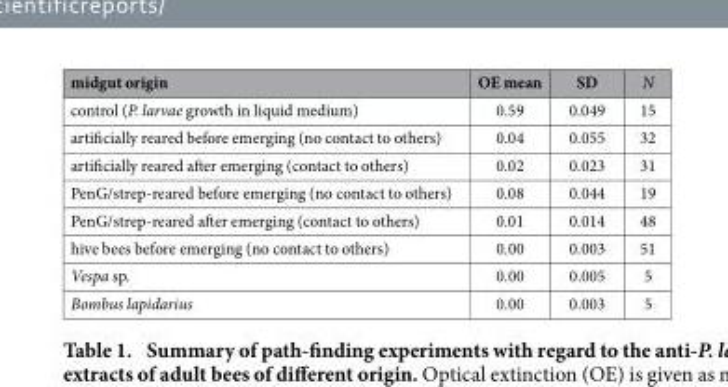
<table><thead><tr><td>midgut origin</td><td>OE mean</td><td>SD</td><td>N</td></tr></thead><tbody><tr><td>control (P. larvae growth in liquid medium)</td><td>0.59</td><td>0.049</td><td>15</td></tr><tr><td>artificially reared before emerging (no contact to others)</td><td>0.04</td><td>0.055</td><td>32</td></tr><tr><td>artificially reared after emerging (contact to others)</td><td>0.02</td><td>0.023</td><td>31</td></tr><tr><td>PenG/strep-reared before emerging (no contact to others)</td><td>0.08</td><td>0.044</td><td>19</td></tr><tr><td>PenG/strep-reared after emerging (contact to others)</td><td>0.01</td><td>0.014</td><td>48</td></tr><tr><td>hive bees before emerging (no contact to others)</td><td>0.00</td><td>0.003</td><td>51</td></tr><tr><td>Vespa sp.</td><td>0.00</td><td>0.005</td><td>5</td></tr><tr><td>Bombus lapidarius</td><td>0.00</td><td>0.003</td><td>5</td></tr></tbody></table>